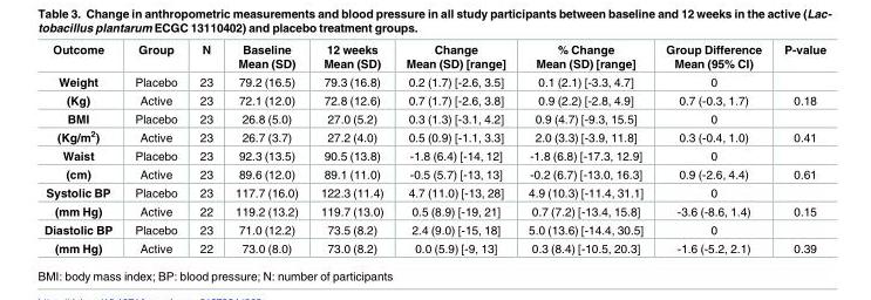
<table><thead><tr><td>Outcome</td><td>Group</td><td>N</td><td>Baseline Mean (SD)</td><td>12 weeks Mean (SD)</td><td>Change Mean (SD) [range]</td><td>% Change Mean (SD) [range]</td><td>Group Difference Mean (95% CI)</td><td>P-value</td></tr></thead><tbody><tr><td>Weight</td><td>Placebo</td><td>23</td><td>79.2 (16.5)</td><td>79.3 (16.8)</td><td>0.2 (1.7) [-2.6, 3.5]</td><td>0.1 (2.1) [-3.3, 4.7]</td><td>0</td><td></td></tr><tr><td>(Kg)</td><td>Active</td><td>23</td><td>72.1 (12.0)</td><td>72.8 (12.6)</td><td>0.7 (1.7) [-2.6, 3.8]</td><td>0.9 (2.2) [-2.8, 4.9]</td><td>0.7 (-0.3, 1.7)</td><td>0.18</td></tr><tr><td>BMI</td><td>Placebo</td><td>23</td><td>26.8 (5.0)</td><td>27.0 (5.2)</td><td>0.3 (1.3) [-3.1, 4.2]</td><td>0.9 (4.7) [-9.3, 15.5]</td><td>0</td><td></td></tr><tr><td>(Kg/m<sup>2</sup>)</td><td>Active</td><td>23</td><td>26.7 (3.7)</td><td>27.2 (4.0)</td><td>0.5 (0.9) [-1.1, 3.3]</td><td>2.0 (3.3) [-3.9, 11.8]</td><td>0.3 (-0.4, 1.0)</td><td>0.41</td></tr><tr><td>Waist</td><td>Placebo</td><td>23</td><td>92.3 (13.5)</td><td>90.5 (13.8)</td><td>-1.8 (6.4) [-14, 12]</td><td>-1.8 (6.8) [-17.3, 12.9]</td><td>0</td><td></td></tr><tr><td>(cm)</td><td>Active</td><td>23</td><td>89.6 (12.0)</td><td>89.1 (11.0)</td><td>-0.5 (5.7) [-13, 13]</td><td>-0.2 (6.7) [-13.0, 16.3]</td><td>0.9 (-2.6, 4.4)</td><td>0.61</td></tr><tr><td>Systolic BP</td><td>Placebo</td><td>23</td><td>117.7 (16.0)</td><td>122.3 (11.4)</td><td>4.7 (11.0) [-13, 28]</td><td>4.9 (10.3) [-11.4, 31.1]</td><td>0</td><td></td></tr><tr><td>(mm Hg)</td><td>Active</td><td>22</td><td>119.2 (13.2)</td><td>119.7 (13.0)</td><td>0.5 (8.9) [-19, 21]</td><td>0.7 (7.2) [-13.4, 15.8]</td><td>-3.6 (-8.6, 1.4)</td><td>0.15</td></tr><tr><td>Diastolic BP</td><td>Placebo</td><td>23</td><td>71.0 (12.2)</td><td>73.5 (8.2)</td><td>2.4 (9.0) [-15, 18]</td><td>5.0 (13.6) [-14.4, 30.5]</td><td>0</td><td></td></tr><tr><td>(mm Hg)</td><td>Active</td><td>22</td><td>73.0 (8.0)</td><td>73.0 (8.2)</td><td>0.0 (5.9) [-9, 13]</td><td>0.3 (8.4) [-10.5, 20.3]</td><td>-1.6 (-5.2, 2.1)</td><td>0.39</td></tr></tbody></table>